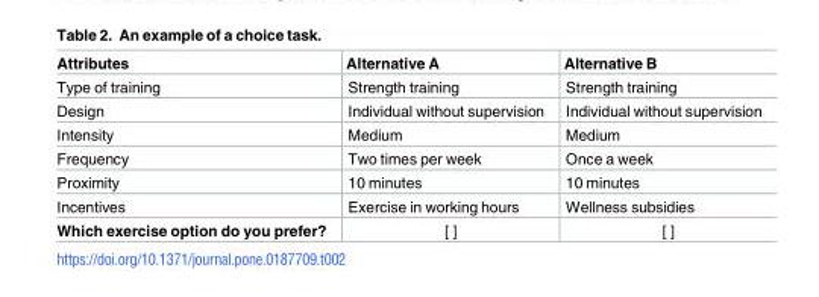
<table><thead><tr><td>Attributes</td><td>Alternative A</td><td>Alternative B</td></tr></thead><tbody><tr><td>Type of training</td><td>Strength training</td><td>Strength training</td></tr><tr><td>Design</td><td>Individual without supervision</td><td>Individual without supervision</td></tr><tr><td>Intensity</td><td>Medium</td><td>Medium</td></tr><tr><td>Frequency</td><td>Two times per week</td><td>Once a week</td></tr><tr><td>Proximity</td><td>10 minutes</td><td>10 minutes</td></tr><tr><td>Incentives</td><td>Exercise in working hours</td><td>Wellness subsidies</td></tr><tr><td>Which exercise option do you prefer?</td><td>[ ]</td><td>[ ]</td></tr></tbody></table>